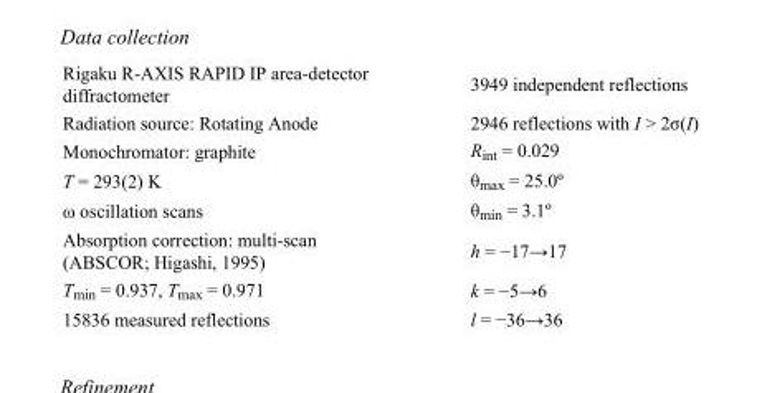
<table><tbody><tr><td>Rigaku R-AXIS RAPID IP area-detector diffractometer</td><td>3949 independent reflections</td></tr><tr><td>Radiation source: Rotating Anode</td><td>2946 reflections with I &gt; 2σ(I)</td></tr><tr><td>Monochromator: graphite</td><td>R<sub>int</sub> = 0.029</td></tr><tr><td>T = 293(2) K</td><td>θ<sub>max</sub> = 25.0º</td></tr><tr><td>ω oscillation scans</td><td>θ<sub>min</sub> = 3.1º</td></tr><tr><td>Absorption correction: multi-scan (ABSCOR; Higashi, 1995)</td><td>h = −17→17</td></tr><tr><td>T<sub>min</sub> = 0.937, T<sub>max</sub> = 0.971</td><td>k = −5→6</td></tr><tr><td>15836 measured reflections</td><td>l = −36→36</td></tr></tbody></table>